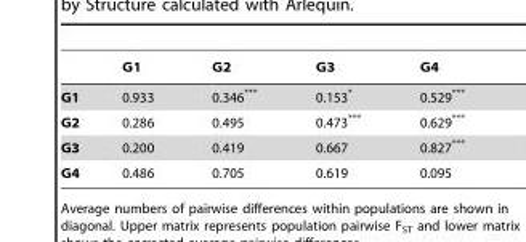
<table><thead><tr><td></td><td>G1</td><td>G2</td><td>G3</td><td>G4</td></tr></thead><tbody><tr><td>G1</td><td>0.933</td><td>0.346***</td><td>0.153*</td><td>0.529***</td></tr><tr><td>G2</td><td>0.286</td><td>0.495</td><td>0.473***</td><td>0.629***</td></tr><tr><td>G3</td><td>0.200</td><td>0.419</td><td>0.667</td><td>0.827***</td></tr><tr><td>G4</td><td>0.486</td><td>0.705</td><td>0.619</td><td>0.095</td></tr></tbody></table>